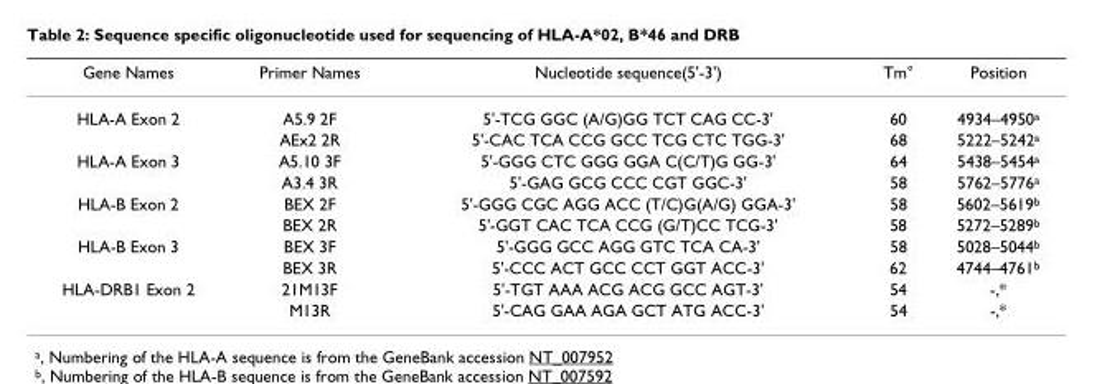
<table><thead><tr><td>Gene Names</td><td>Primer Names</td><td>Nucleotide sequence(5&#x27;-3&#x27;)</td><td>Tm°</td><td>Position</td></tr></thead><tbody><tr><td rowspan="2">HLA-A Exon 2</td><td>A5.9 2F</td><td>5&#x27;-TCG GGC (A/G)GG TCT CAG CC-3&#x27;</td><td>60</td><td>4934–4950<sup>a</sup></td></tr><tr><td>AEx2 2R</td><td>5&#x27;-CAC TCA CCG GCC TCG CTC TGG-3&#x27;</td><td>68</td><td>5222–5242<sup>a</sup></td></tr><tr><td rowspan="2">HLA-A Exon 3</td><td>A5.10 3F</td><td>5&#x27;-GGG CTC GGG GGA C(C/T)G GG-3&#x27;</td><td>64</td><td>5438–5454<sup>a</sup></td></tr><tr><td>A3.4 3R</td><td>5&#x27;-GAG GCG CCC CGT GGC-3&#x27;</td><td>58</td><td>5762–5776<sup>a</sup></td></tr><tr><td rowspan="2">HLA-B Exon 2</td><td>BEX 2F</td><td>5&#x27;-GGG CGC AGG ACC (T/C)G(A/G) GGA-3&#x27;</td><td>58</td><td>5602–5619<sup>b</sup></td></tr><tr><td>BEX 2R</td><td>5&#x27;-GGT CAC TCA CCG (G/T)CC TCG-3&#x27;</td><td>58</td><td>5272–5289<sup>b</sup></td></tr><tr><td rowspan="2">HLA-B Exon 3</td><td>BEX 3F</td><td>5&#x27;-GGG GCC AGG GTC TCA CA-3&#x27;</td><td>58</td><td>5028–5044<sup>b</sup></td></tr><tr><td>BEX 3R</td><td>5&#x27;-CCC ACT GCC CCT GGT ACC-3&#x27;</td><td>62</td><td>4744–4761<sup>b</sup></td></tr><tr><td rowspan="2">HLA-DRB1 Exon 2</td><td>21M13F</td><td>5&#x27;-TGT AAA ACG ACG GCC AGT-3&#x27;</td><td>54</td><td>-,*</td></tr><tr><td>M13R</td><td>5&#x27;-CAG GAA AGA GCT ATG ACC-3&#x27;</td><td>54</td><td>-,*</td></tr></tbody></table>